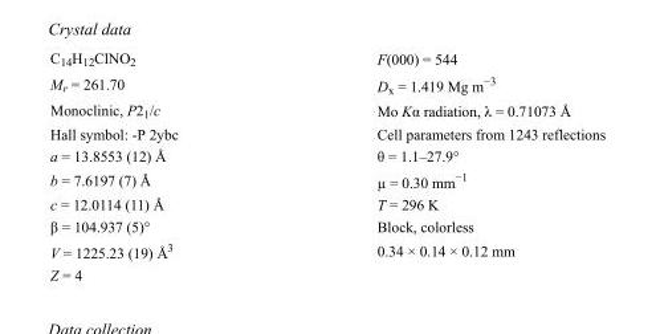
<table><tbody><tr><td>C<sub>14</sub>H<sub>12</sub>ClNO<sub>2</sub></td><td>F(000) = 544</td></tr><tr><td>M<sub>r</sub> = 261.70</td><td>D<sub>x</sub> = 1.419 Mg m<sup>−3</sup></td></tr><tr><td>Monoclinic, P2<sub>1</sub>/c</td><td>Mo Kα radiation, λ = 0.71073 Å</td></tr><tr><td>Hall symbol: -P 2ybc</td><td>Cell parameters from 1243 reflections</td></tr><tr><td>a = 13.8553 (12) Å</td><td>θ = 1.1–27.9°</td></tr><tr><td>b = 7.6197 (7) Å</td><td>µ = 0.30 mm<sup>−1</sup></td></tr><tr><td>c = 12.0114 (11) Å</td><td>T = 296 K</td></tr><tr><td>β = 104.937 (5)°</td><td>Block, colorless</td></tr><tr><td>V = 1225.23 (19) Å<sup>3</sup></td><td>0.34 × 0.14 × 0.12 mm</td></tr><tr><td>Z = 4</td><td></td></tr></tbody></table>